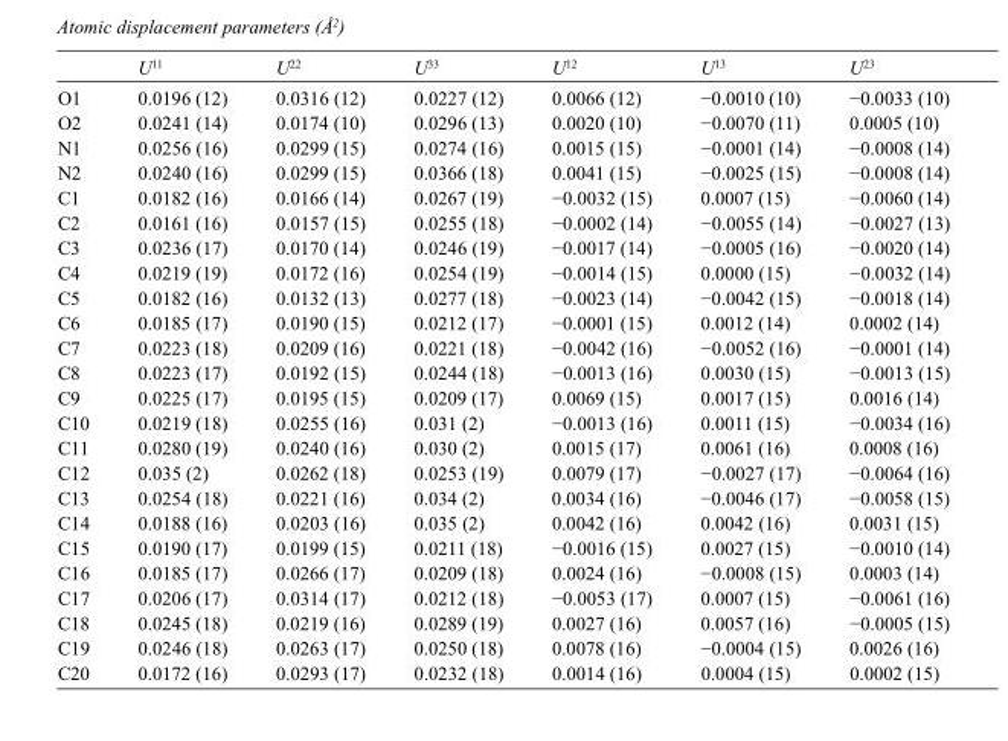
<table><thead><tr><td></td><td>U<sup>11</sup></td><td>U<sup>22</sup></td><td>U<sup>33</sup></td><td>U<sup>12</sup></td><td>U<sup>13</sup></td><td>U<sup>23</sup></td></tr></thead><tbody><tr><td>O1</td><td>0.0196 (12)</td><td>0.0316 (12)</td><td>0.0227 (12)</td><td>0.0066 (12)</td><td>−0.0010 (10)</td><td>−0.0033 (10)</td></tr><tr><td>O2</td><td>0.0241 (14)</td><td>0.0174 (10)</td><td>0.0296 (13)</td><td>0.0020 (10)</td><td>−0.0070 (11)</td><td>0.0005 (10)</td></tr><tr><td>N1</td><td>0.0256 (16)</td><td>0.0299 (15)</td><td>0.0274 (16)</td><td>0.0015 (15)</td><td>−0.0001 (14)</td><td>−0.0008 (14)</td></tr><tr><td>N2</td><td>0.0240 (16)</td><td>0.0299 (15)</td><td>0.0366 (18)</td><td>0.0041 (15)</td><td>−0.0025 (15)</td><td>−0.0008 (14)</td></tr><tr><td>C1</td><td>0.0182 (16)</td><td>0.0166 (14)</td><td>0.0267 (19)</td><td>−0.0032 (15)</td><td>0.0007 (15)</td><td>−0.0060 (14)</td></tr><tr><td>C2</td><td>0.0161 (16)</td><td>0.0157 (15)</td><td>0.0255 (18)</td><td>−0.0002 (14)</td><td>−0.0055 (14)</td><td>−0.0027 (13)</td></tr><tr><td>C3</td><td>0.0236 (17)</td><td>0.0170 (14)</td><td>0.0246 (19)</td><td>−0.0017 (14)</td><td>−0.0005 (16)</td><td>−0.0020 (14)</td></tr><tr><td>C4</td><td>0.0219 (19)</td><td>0.0172 (16)</td><td>0.0254 (19)</td><td>−0.0014 (15)</td><td>0.0000 (15)</td><td>−0.0032 (14)</td></tr><tr><td>C5</td><td>0.0182 (16)</td><td>0.0132 (13)</td><td>0.0277 (18)</td><td>−0.0023 (14)</td><td>−0.0042 (15)</td><td>−0.0018 (14)</td></tr><tr><td>C6</td><td>0.0185 (17)</td><td>0.0190 (15)</td><td>0.0212 (17)</td><td>−0.0001 (15)</td><td>0.0012 (14)</td><td>0.0002 (14)</td></tr><tr><td>C7</td><td>0.0223 (18)</td><td>0.0209 (16)</td><td>0.0221 (18)</td><td>−0.0042 (16)</td><td>−0.0052 (16)</td><td>−0.0001 (14)</td></tr><tr><td>C8</td><td>0.0223 (17)</td><td>0.0192 (15)</td><td>0.0244 (18)</td><td>−0.0013 (16)</td><td>0.0030 (15)</td><td>−0.0013 (15)</td></tr><tr><td>C9</td><td>0.0225 (17)</td><td>0.0195 (15)</td><td>0.0209 (17)</td><td>0.0069 (15)</td><td>0.0017 (15)</td><td>0.0016 (14)</td></tr><tr><td>C10</td><td>0.0219 (18)</td><td>0.0255 (16)</td><td>0.031 (2)</td><td>−0.0013 (16)</td><td>0.0011 (15)</td><td>−0.0034 (16)</td></tr><tr><td>C11</td><td>0.0280 (19)</td><td>0.0240 (16)</td><td>0.030 (2)</td><td>0.0015 (17)</td><td>0.0061 (16)</td><td>0.0008 (16)</td></tr><tr><td>C12</td><td>0.035 (2)</td><td>0.0262 (18)</td><td>0.0253 (19)</td><td>0.0079 (17)</td><td>−0.0027 (17)</td><td>−0.0064 (16)</td></tr><tr><td>C13</td><td>0.0254 (18)</td><td>0.0221 (16)</td><td>0.034 (2)</td><td>0.0034 (16)</td><td>−0.0046 (17)</td><td>−0.0058 (15)</td></tr><tr><td>C14</td><td>0.0188 (16)</td><td>0.0203 (16)</td><td>0.035 (2)</td><td>0.0042 (16)</td><td>0.0042 (16)</td><td>0.0031 (15)</td></tr><tr><td>C15</td><td>0.0190 (17)</td><td>0.0199 (15)</td><td>0.0211 (18)</td><td>−0.0016 (15)</td><td>0.0027 (15)</td><td>−0.0010 (14)</td></tr><tr><td>C16</td><td>0.0185 (17)</td><td>0.0266 (17)</td><td>0.0209 (18)</td><td>0.0024 (16)</td><td>−0.0008 (15)</td><td>0.0003 (14)</td></tr><tr><td>C17</td><td>0.0206 (17)</td><td>0.0314 (17)</td><td>0.0212 (18)</td><td>−0.0053 (17)</td><td>0.0007 (15)</td><td>−0.0061 (16)</td></tr><tr><td>C18</td><td>0.0245 (18)</td><td>0.0219 (16)</td><td>0.0289 (19)</td><td>0.0027 (16)</td><td>0.0057 (16)</td><td>−0.0005 (15)</td></tr><tr><td>C19</td><td>0.0246 (18)</td><td>0.0263 (17)</td><td>0.0250 (18)</td><td>0.0078 (16)</td><td>−0.0004 (15)</td><td>0.0026 (16)</td></tr><tr><td>C20</td><td>0.0172 (16)</td><td>0.0293 (17)</td><td>0.0232 (18)</td><td>0.0014 (16)</td><td>0.0004 (15)</td><td>0.0002 (15)</td></tr></tbody></table>